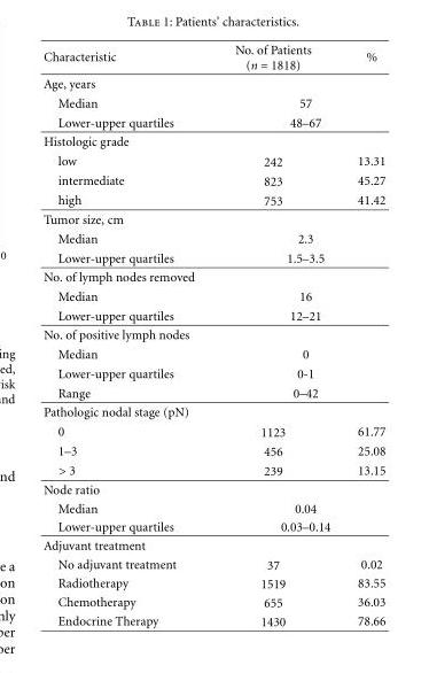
<table><thead><tr><td>Characteristic</td><td>No. of Patients (n = 1818)</td><td>%</td></tr></thead><tbody><tr><td colspan="3">Age, years</td></tr><tr><td>Median</td><td colspan="2">57</td></tr><tr><td>Lower-upper quartiles</td><td colspan="2">48–67</td></tr><tr><td colspan="3">Histologic grade</td></tr><tr><td>low</td><td>242</td><td>13.31</td></tr><tr><td>intermediate</td><td>823</td><td>45.27</td></tr><tr><td>high</td><td>753</td><td>41.42</td></tr><tr><td colspan="3">Tumor size, cm</td></tr><tr><td>Median</td><td colspan="2">2.3</td></tr><tr><td>Lower-upper quartiles</td><td colspan="2">1.5–3.5</td></tr><tr><td colspan="3">No. of lymph nodes removed</td></tr><tr><td>Median</td><td colspan="2">16</td></tr><tr><td>Lower-upper quartiles</td><td colspan="2">12–21</td></tr><tr><td colspan="3">No. of positive lymph nodes</td></tr><tr><td>Median</td><td colspan="2">0</td></tr><tr><td>Lower-upper quartiles</td><td colspan="2">0-1</td></tr><tr><td>Range</td><td colspan="2">0–42</td></tr><tr><td colspan="3">Pathologic nodal stage (pN)</td></tr><tr><td>0</td><td>1123</td><td>61.77</td></tr><tr><td>1–3</td><td>456</td><td>25.08</td></tr><tr><td>&gt; 3</td><td>239</td><td>13.15</td></tr><tr><td colspan="3">Node ratio</td></tr><tr><td>Median</td><td colspan="2">0.04</td></tr><tr><td>Lower-upper quartiles</td><td colspan="2">0.03–0.14</td></tr><tr><td colspan="3">Adjuvant treatment</td></tr><tr><td>No adjuvant treatment</td><td>37</td><td>0.02</td></tr><tr><td>Radiotherapy</td><td>1519</td><td>83.55</td></tr><tr><td>Chemotherapy</td><td>655</td><td>36.03</td></tr><tr><td>Endocrine Therapy</td><td>1430</td><td>78.66</td></tr></tbody></table>